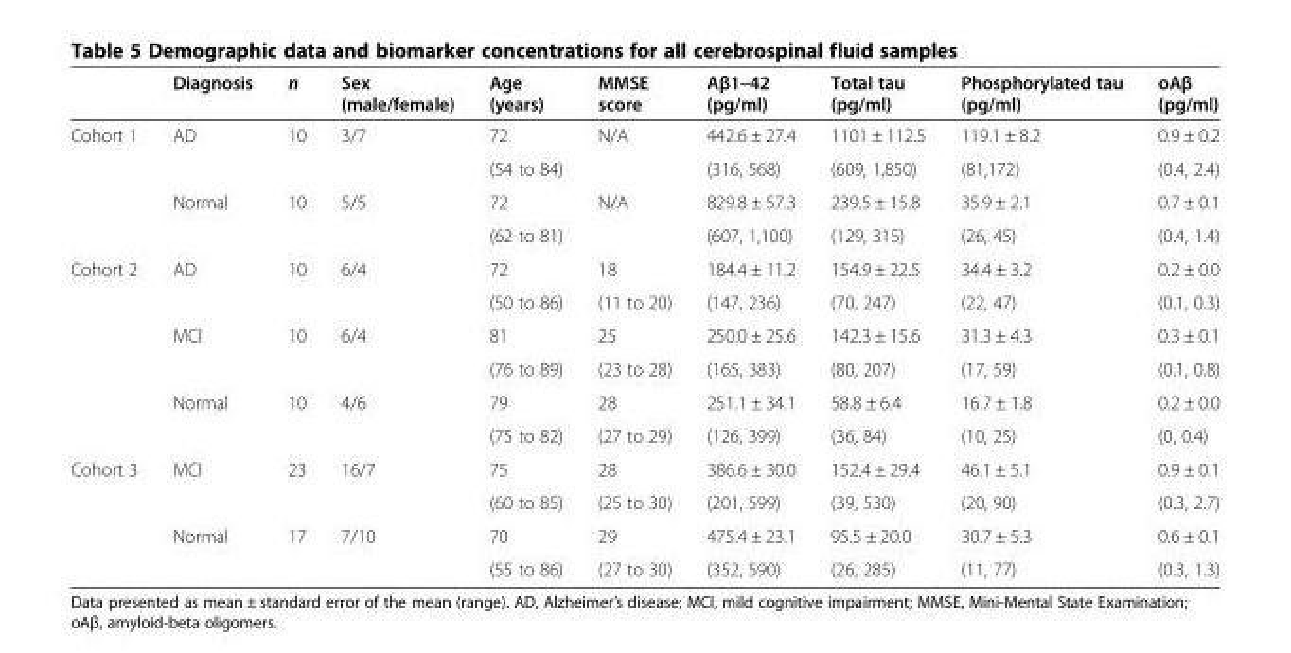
<table><thead><tr><td></td><td>Diagnosis</td><td>n</td><td>Sex (male/female)</td><td>Age (years)</td><td>MMSE score</td><td>Aβ1–42 (pg/ml)</td><td>Total tau (pg/ml)</td><td>Phosphorylated tau (pg/ml)</td><td>oAβ (pg/ml)</td></tr></thead><tbody><tr><td rowspan="4">Cohort 1</td><td rowspan="2">AD</td><td rowspan="2">10</td><td rowspan="2">3/7</td><td>72</td><td>N/A</td><td>442.6 ± 27.4</td><td>1101 ± 112.5</td><td>119.1 ± 8.2</td><td>0.9 ± 0.2</td></tr><tr><td>(54 to 84)</td><td></td><td>(316, 568)</td><td>(609, 1,850)</td><td>(81,172)</td><td>(0.4, 2.4)</td></tr><tr><td rowspan="2">Normal</td><td rowspan="2">10</td><td rowspan="2">5/5</td><td>72</td><td>N/A</td><td>829.8 ± 57.3</td><td>239.5 ± 15.8</td><td>35.9 ± 2.1</td><td>0.7 ± 0.1</td></tr><tr><td>(62 to 81)</td><td></td><td>(607, 1,100)</td><td>(129, 315)</td><td>(26, 45)</td><td>(0.4, 1.4)</td></tr><tr><td rowspan="6">Cohort 2</td><td rowspan="2">AD</td><td rowspan="2">10</td><td rowspan="2">6/4</td><td>72</td><td>18</td><td>184.4 ± 11.2</td><td>154.9 ± 22.5</td><td>34.4 ± 3.2</td><td>0.2 ± 0.0</td></tr><tr><td>(50 to 86)</td><td>(11 to 20)</td><td>(147, 236)</td><td>(70, 247)</td><td>(22, 47)</td><td>(0.1, 0.3)</td></tr><tr><td rowspan="2">MCI</td><td rowspan="2">10</td><td rowspan="2">6/4</td><td>81</td><td>25</td><td>250.0 ± 25.6</td><td>142.3 ± 15.6</td><td>31.3 ± 4.3</td><td>0.3 ± 0.1</td></tr><tr><td>(76 to 89)</td><td>(23 to 28)</td><td>(165, 383)</td><td>(80, 207)</td><td>(17, 59)</td><td>(0.1, 0.8)</td></tr><tr><td rowspan="2">Normal</td><td rowspan="2">10</td><td rowspan="2">4/6</td><td>79</td><td>28</td><td>251.1 ± 34.1</td><td>58.8 ± 6.4</td><td>16.7 ± 1.8</td><td>0.2 ± 0.0</td></tr><tr><td>(75 to 82)</td><td>(27 to 29)</td><td>(126, 399)</td><td>(36, 84)</td><td>(10, 25)</td><td>(0, 0.4)</td></tr><tr><td rowspan="4">Cohort 3</td><td rowspan="2">MCI</td><td rowspan="2">23</td><td rowspan="2">16/7</td><td>75</td><td>28</td><td>386.6 ± 30.0</td><td>152.4 ± 29.4</td><td>46.1 ± 5.1</td><td>0.9 ± 0.1</td></tr><tr><td>(60 to 85)</td><td>(25 to 30)</td><td>(201, 599)</td><td>(39, 530)</td><td>(20, 90)</td><td>(0.3, 2.7)</td></tr><tr><td rowspan="2">Normal</td><td rowspan="2">17</td><td rowspan="2">7/10</td><td>70</td><td>29</td><td>475.4 ± 23.1</td><td>95.5 ± 20.0</td><td>30.7 ± 5.3</td><td>0.6 ± 0.1</td></tr><tr><td>(55 to 86)</td><td>(27 to 30)</td><td>(352, 590)</td><td>(26, 285)</td><td>(11, 77)</td><td>(0.3, 1.3)</td></tr></tbody></table>